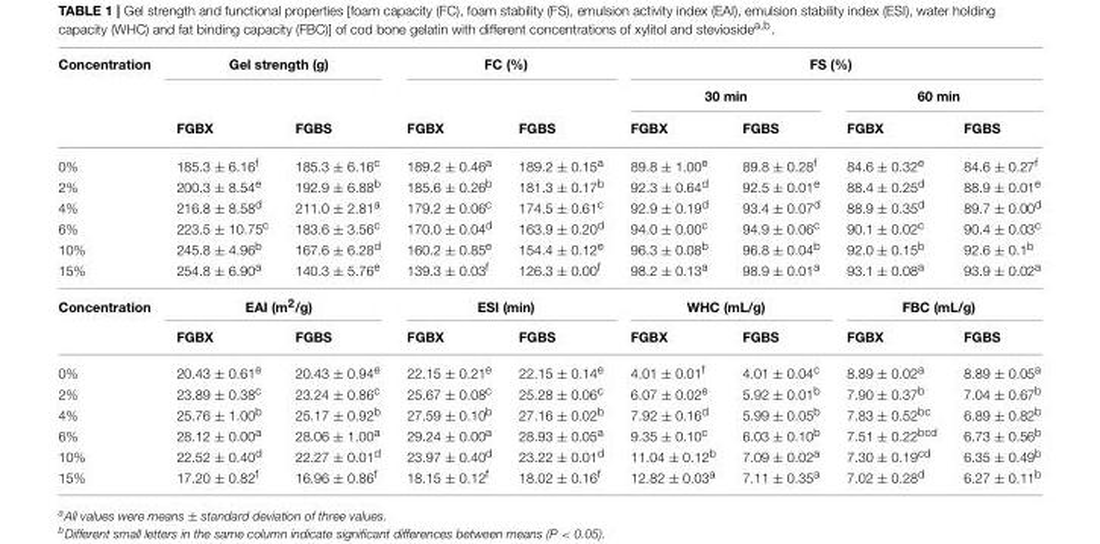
<table><thead><tr><td rowspan="3">Concentration</td><td colspan="2">Gel strength (g)</td><td colspan="2">FC (%)</td><td colspan="4">FS (%)</td></tr><tr><td rowspan="2">FGBX</td><td rowspan="2">FGBS</td><td rowspan="2">FGBX</td><td rowspan="2">FGBS</td><td colspan="2">30 min</td><td colspan="2">60 min</td></tr><tr><td>FGBX</td><td>FGBS</td><td>FGBX</td><td>FGBS</td></tr></thead><tbody><tr><td>0%</td><td>185.3 ± 6.16<sup>f</sup></td><td>185.3 ± 6.16<sup>c</sup></td><td>189.2 ± 0.46<sup>a</sup></td><td>189.2 ± 0.15<sup>a</sup></td><td>89.8 ± 1.00<sup>e</sup></td><td>89.8 ± 0.28<sup>f</sup></td><td>84.6 ± 0.32<sup>e</sup></td><td>84.6 ± 0.27<sup>f</sup></td></tr><tr><td>2%</td><td>200.3 ± 8.54<sup>e</sup></td><td>192.9 ± 6.88<sup>b</sup></td><td>185.6 ± 0.26<sup>b</sup></td><td>181.3 ± 0.17<sup>b</sup></td><td>92.3 ± 0.64<sup>d</sup></td><td>92.5 ± 0.01<sup>e</sup></td><td>88.4 ± 0.25<sup>d</sup></td><td>88.9 ± 0.01<sup>e</sup></td></tr><tr><td>4%</td><td>216.8 ± 8.58<sup>d</sup></td><td>211.0 ± 2.81<sup>a</sup></td><td>179.2 ± 0.06<sup>c</sup></td><td>174.5 ± 0.61<sup>c</sup></td><td>92.9 ± 0.19<sup>d</sup></td><td>93.4 ± 0.07<sup>d</sup></td><td>88.9 ± 0.35<sup>d</sup></td><td>89.7 ± 0.00<sup>d</sup></td></tr><tr><td>6%</td><td>223.5 ± 10.75<sup>c</sup></td><td>183.6 ± 3.56<sup>c</sup></td><td>170.0 ± 0.04<sup>d</sup></td><td>163.9 ± 0.20<sup>d</sup></td><td>94.0 ± 0.00<sup>c</sup></td><td>94.9 ± 0.06<sup>c</sup></td><td>90.1 ± 0.02<sup>c</sup></td><td>90.4 ± 0.03<sup>c</sup></td></tr><tr><td>10%</td><td>245.8 ± 4.96<sup>b</sup></td><td>167.6 ± 6.28<sup>d</sup></td><td>160.2 ± 0.85<sup>e</sup></td><td>154.4 ± 0.12<sup>e</sup></td><td>96.3 ± 0.08<sup>b</sup></td><td>96.8 ± 0.04<sup>b</sup></td><td>92.0 ± 0.15<sup>b</sup></td><td>92.6 ± 0.1<sup>b</sup></td></tr><tr><td>15%</td><td>254.8 ± 6.90<sup>a</sup></td><td>140.3 ± 5.76<sup>e</sup></td><td>139.3 ± 0.03<sup>f</sup></td><td>126.3 ± 0.00<sup>f</sup></td><td>98.2 ± 0.13<sup>a</sup></td><td>98.9 ± 0.01<sup>a</sup></td><td>93.1 ± 0.08<sup>a</sup></td><td>93.9 ± 0.02<sup>a</sup></td></tr><tr><td rowspan="2">Concentration</td><td colspan="2">EAI (m<sup>2</sup>/g)</td><td colspan="2">ESI (min)</td><td colspan="2">WHC (mL/g)</td><td colspan="2">FBC (mL/g)</td></tr><tr><td>FGBX</td><td>FGBS</td><td>FGBX</td><td>FGBS</td><td>FGBX</td><td>FGBS</td><td>FGBX</td><td>FGBS</td></tr><tr><td>0%</td><td>20.43 ± 0.61<sup>e</sup></td><td>20.43 ± 0.94<sup>e</sup></td><td>22.15 ± 0.21<sup>e</sup></td><td>22.15 ± 0.14<sup>e</sup></td><td>4.01 ± 0.01<sup>f</sup></td><td>4.01 ± 0.04<sup>c</sup></td><td>8.89 ± 0.02<sup>a</sup></td><td>8.89 ± 0.05<sup>a</sup></td></tr><tr><td>2%</td><td>23.89 ± 0.38<sup>c</sup></td><td>23.24 ± 0.86<sup>c</sup></td><td>25.67 ± 0.08<sup>c</sup></td><td>25.28 ± 0.06<sup>c</sup></td><td>6.07 ± 0.02<sup>e</sup></td><td>5.92 ± 0.01<sup>b</sup></td><td>7.90 ± 0.37<sup>b</sup></td><td>7.04 ± 0.67<sup>b</sup></td></tr><tr><td>4%</td><td>25.76 ± 1.00<sup>b</sup></td><td>25.17 ± 0.92<sup>b</sup></td><td>27.59 ± 0.10<sup>b</sup></td><td>27.16 ± 0.02<sup>b</sup></td><td>7.92 ± 0.16<sup>d</sup></td><td>5.99 ± 0.05<sup>b</sup></td><td>7.83 ± 0.52<sup>bc</sup></td><td>6.89 ± 0.82<sup>b</sup></td></tr><tr><td>6%</td><td>28.12 ± 0.00<sup>a</sup></td><td>28.06 ± 1.00<sup>a</sup></td><td>29.24 ± 0.00<sup>a</sup></td><td>28.93 ± 0.05<sup>a</sup></td><td>9.35 ± 0.10<sup>c</sup></td><td>6.03 ± 0.10<sup>b</sup></td><td>7.51 ± 0.22<sup>bcd</sup></td><td>6.73 ± 0.56<sup>b</sup></td></tr><tr><td>10%</td><td>22.52 ± 0.40<sup>d</sup></td><td>22.27 ± 0.01<sup>d</sup></td><td>23.97 ± 0.40<sup>d</sup></td><td>23.22 ± 0.01<sup>d</sup></td><td>11.04 ± 0.12<sup>b</sup></td><td>7.09 ± 0.02<sup>a</sup></td><td>7.30 ± 0.19<sup>cd</sup></td><td>6.35 ± 0.49<sup>b</sup></td></tr><tr><td>15%</td><td>17.20 ± 0.82<sup>f</sup></td><td>16.96 ± 0.86<sup>f</sup></td><td>18.15 ± 0.12<sup>f</sup></td><td>18.02 ± 0.16<sup>f</sup></td><td>12.82 ± 0.03<sup>a</sup></td><td>7.11 ± 0.35<sup>a</sup></td><td>7.02 ± 0.28<sup>d</sup></td><td>6.27 ± 0.11<sup>b</sup></td></tr></tbody></table>